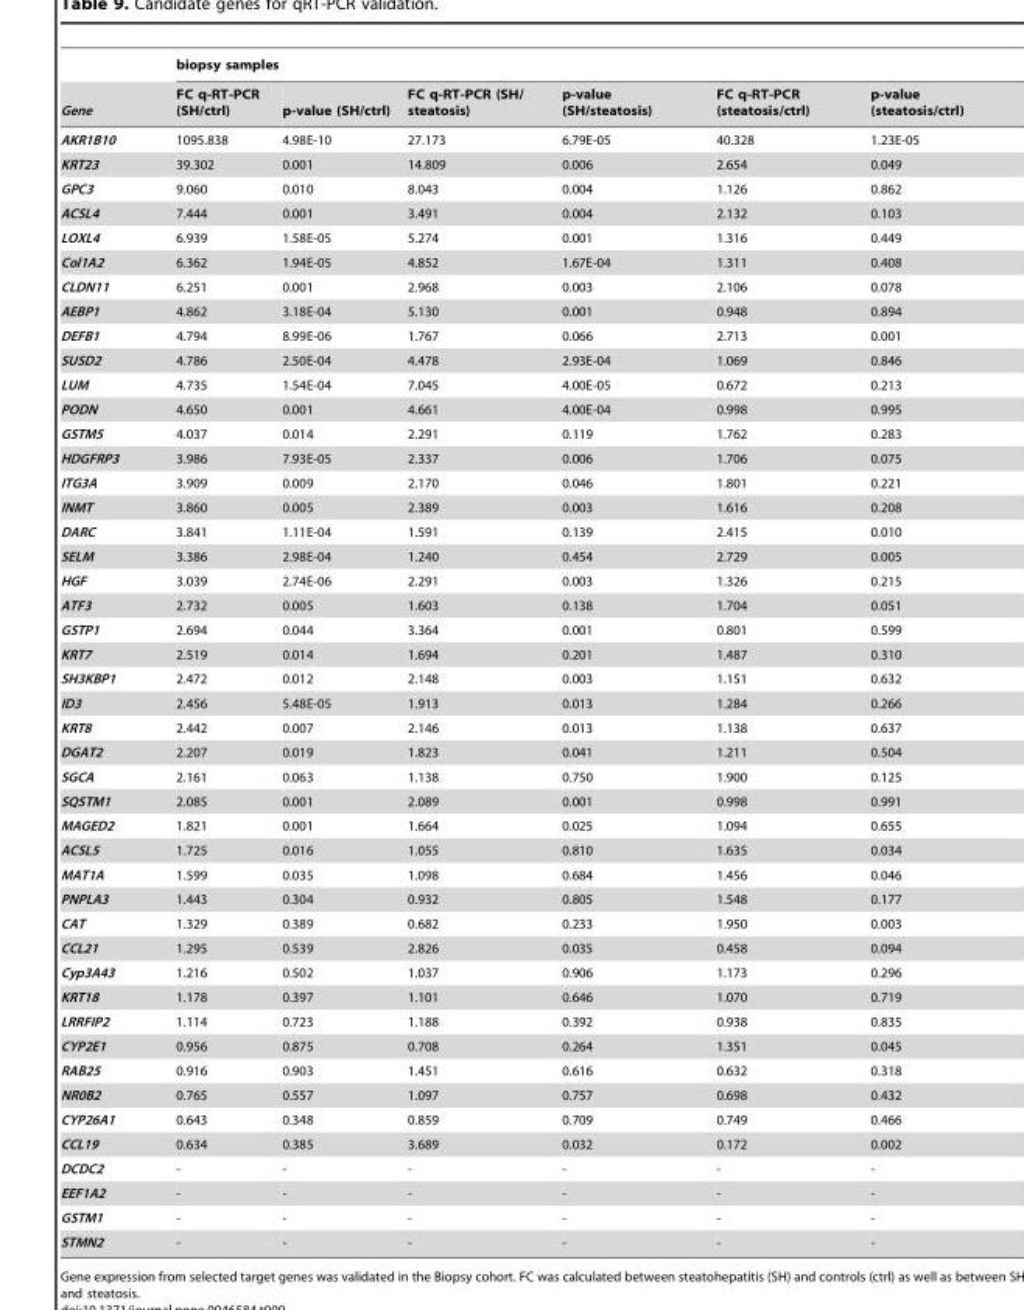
<table><thead><tr><td rowspan="2">Gene</td><td colspan="6">biopsy samples</td></tr><tr><td>FC q-RT-PCR (SH/ctrl)</td><td>p-value (SH/ctrl)</td><td>FC q-RT-PCR (SH/ steatosis)</td><td>p-value (SH/steatosis)</td><td>FC q-RT-PCR (steatosis/ctrl)</td><td>p-value (steatosis/ctrl)</td></tr></thead><tbody><tr><td>AKR1B10</td><td>1095.838</td><td>4.98E-10</td><td>27.173</td><td>6.79E-05</td><td>40.328</td><td>1.23E-05</td></tr><tr><td>KRT23</td><td>39.302</td><td>0.001</td><td>14.809</td><td>0.006</td><td>2.654</td><td>0.049</td></tr><tr><td>GPC3</td><td>9.060</td><td>0.010</td><td>8.043</td><td>0.004</td><td>1.126</td><td>0.862</td></tr><tr><td>ACSL4</td><td>7.444</td><td>0.001</td><td>3.491</td><td>0.004</td><td>2.132</td><td>0.103</td></tr><tr><td>LOXL4</td><td>6.939</td><td>1.58E-05</td><td>5.274</td><td>0.001</td><td>1.316</td><td>0.449</td></tr><tr><td>Col1A2</td><td>6.362</td><td>1.94E-05</td><td>4.852</td><td>1.67E-04</td><td>1.311</td><td>0.408</td></tr><tr><td>CLDN11</td><td>6.251</td><td>0.001</td><td>2.968</td><td>0.003</td><td>2.106</td><td>0.078</td></tr><tr><td>AEBP1</td><td>4.862</td><td>3.18E-04</td><td>5.130</td><td>0.001</td><td>0.948</td><td>0.894</td></tr><tr><td>DEFB1</td><td>4.794</td><td>8.99E-06</td><td>1.767</td><td>0.066</td><td>2.713</td><td>0.001</td></tr><tr><td>SUSD2</td><td>4.786</td><td>2.50E-04</td><td>4.478</td><td>2.93E-04</td><td>1.069</td><td>0.846</td></tr><tr><td>LUM</td><td>4.735</td><td>1.54E-04</td><td>7.045</td><td>4.00E-05</td><td>0.672</td><td>0.213</td></tr><tr><td>PODN</td><td>4.650</td><td>0.001</td><td>4.661</td><td>4.00E-04</td><td>0.998</td><td>0.995</td></tr><tr><td>GSTM5</td><td>4.037</td><td>0.014</td><td>2.291</td><td>0.119</td><td>1.762</td><td>0.283</td></tr><tr><td>HDGFRP3</td><td>3.986</td><td>7.93E-05</td><td>2.337</td><td>0.006</td><td>1.706</td><td>0.075</td></tr><tr><td>ITG3A</td><td>3.909</td><td>0.009</td><td>2.170</td><td>0.046</td><td>1.801</td><td>0.221</td></tr><tr><td>INMT</td><td>3.860</td><td>0.005</td><td>2.389</td><td>0.003</td><td>1.616</td><td>0.208</td></tr><tr><td>DARC</td><td>3.841</td><td>1.11E-04</td><td>1.591</td><td>0.139</td><td>2.415</td><td>0.010</td></tr><tr><td>SELM</td><td>3.386</td><td>2.98E-04</td><td>1.240</td><td>0.454</td><td>2.729</td><td>0.005</td></tr><tr><td>HGF</td><td>3.039</td><td>2.74E-06</td><td>2.291</td><td>0.003</td><td>1.326</td><td>0.215</td></tr><tr><td>ATF3</td><td>2.732</td><td>0.005</td><td>1.603</td><td>0.138</td><td>1.704</td><td>0.051</td></tr><tr><td>GSTP1</td><td>2.694</td><td>0.044</td><td>3.364</td><td>0.001</td><td>0.801</td><td>0.599</td></tr><tr><td>KRT7</td><td>2.519</td><td>0.014</td><td>1.694</td><td>0.201</td><td>1.487</td><td>0.310</td></tr><tr><td>SH3KBP1</td><td>2.472</td><td>0.012</td><td>2.148</td><td>0.003</td><td>1.151</td><td>0.632</td></tr><tr><td>ID3</td><td>2.456</td><td>5.48E-05</td><td>1.913</td><td>0.013</td><td>1.284</td><td>0.266</td></tr><tr><td>KRT8</td><td>2.442</td><td>0.007</td><td>2.146</td><td>0.013</td><td>1.138</td><td>0.637</td></tr><tr><td>DGAT2</td><td>2.207</td><td>0.019</td><td>1.823</td><td>0.041</td><td>1.211</td><td>0.504</td></tr><tr><td>SGCA</td><td>2.161</td><td>0.063</td><td>1.138</td><td>0.750</td><td>1.900</td><td>0.125</td></tr><tr><td>SQSTM1</td><td>2.085</td><td>0.001</td><td>2.089</td><td>0.001</td><td>0.998</td><td>0.991</td></tr><tr><td>MAGED2</td><td>1.821</td><td>0.001</td><td>1.664</td><td>0.025</td><td>1.094</td><td>0.655</td></tr><tr><td>ACSL5</td><td>1.725</td><td>0.016</td><td>1.055</td><td>0.810</td><td>1.635</td><td>0.034</td></tr><tr><td>MAT1A</td><td>1.599</td><td>0.035</td><td>1.098</td><td>0.684</td><td>1.456</td><td>0.046</td></tr><tr><td>PNPLA3</td><td>1.443</td><td>0.304</td><td>0.932</td><td>0.805</td><td>1.548</td><td>0.177</td></tr><tr><td>CAT</td><td>1.329</td><td>0.389</td><td>0.682</td><td>0.233</td><td>1.950</td><td>0.003</td></tr><tr><td>CCL21</td><td>1.295</td><td>0.539</td><td>2.826</td><td>0.035</td><td>0.458</td><td>0.094</td></tr><tr><td>Cyp3A43</td><td>1.216</td><td>0.502</td><td>1.037</td><td>0.906</td><td>1.173</td><td>0.296</td></tr><tr><td>KRT18</td><td>1.178</td><td>0.397</td><td>1.101</td><td>0.646</td><td>1.070</td><td>0.719</td></tr><tr><td>LRRFIP2</td><td>1.114</td><td>0.723</td><td>1.188</td><td>0.392</td><td>0.938</td><td>0.835</td></tr><tr><td>CYP2E1</td><td>0.956</td><td>0.875</td><td>0.708</td><td>0.264</td><td>1.351</td><td>0.045</td></tr><tr><td>RAB25</td><td>0.916</td><td>0.903</td><td>1.451</td><td>0.616</td><td>0.632</td><td>0.318</td></tr><tr><td>NR0B2</td><td>0.765</td><td>0.557</td><td>1.097</td><td>0.757</td><td>0.698</td><td>0.432</td></tr><tr><td>CYP26A1</td><td>0.643</td><td>0.348</td><td>0.859</td><td>0.709</td><td>0.749</td><td>0.466</td></tr><tr><td>CCL19</td><td>0.634</td><td>0.385</td><td>3.689</td><td>0.032</td><td>0.172</td><td>0.002</td></tr><tr><td>DCDC2</td><td>-</td><td>-</td><td>-</td><td>-</td><td>-</td><td>-</td></tr><tr><td>EEF1A2</td><td>-</td><td>-</td><td>-</td><td>-</td><td>-</td><td>-</td></tr><tr><td>GSTM1</td><td>-</td><td>-</td><td>-</td><td>-</td><td>-</td><td>-</td></tr><tr><td>STMN2</td><td>-</td><td>-</td><td>-</td><td>-</td><td>-</td><td>-</td></tr></tbody></table>